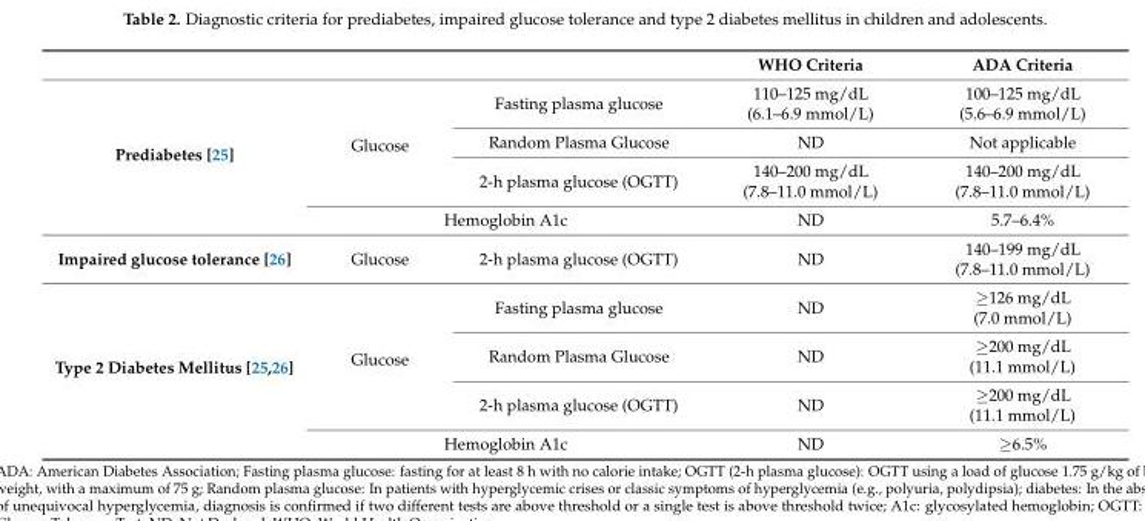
<table><thead><tr><td></td><td></td><td></td><td>WHO Criteria</td><td>ADA Criteria</td></tr></thead><tbody><tr><td rowspan="4">Prediabetes [25]</td><td rowspan="3">Glucose</td><td>Fasting plasma glucose</td><td>110–125 mg/dL (6.1–6.9 mmol/L)</td><td>100–125 mg/dL (5.6–6.9 mmol/L)</td></tr><tr><td>Random Plasma Glucose</td><td>ND</td><td>Not applicable</td></tr><tr><td>2-h plasma glucose (OGTT)</td><td>140–200 mg/dL (7.8–11.0 mmol/L)</td><td>140–200 mg/dL (7.8–11.0 mmol/L)</td></tr><tr><td colspan="2">Hemoglobin A1c</td><td>ND</td><td>5.7–6.4%</td></tr><tr><td>Impaired glucose tolerance [26]</td><td>Glucose</td><td>2-h plasma glucose (OGTT)</td><td>ND</td><td>140–199 mg/dL (7.8–11.0 mmol/L)</td></tr><tr><td rowspan="4">Type 2 Diabetes Mellitus [25,26]</td><td rowspan="3">Glucose</td><td>Fasting plasma glucose</td><td>ND</td><td>≥126 mg/dL (7.0 mmol/L)</td></tr><tr><td>Random Plasma Glucose</td><td>ND</td><td>≥200 mg/dL (11.1 mmol/L)</td></tr><tr><td>2-h plasma glucose (OGTT)</td><td>ND</td><td>≥200 mg/dL (11.1 mmol/L)</td></tr><tr><td colspan="2">Hemoglobin A1c</td><td>ND</td><td>≥6.5%</td></tr></tbody></table>